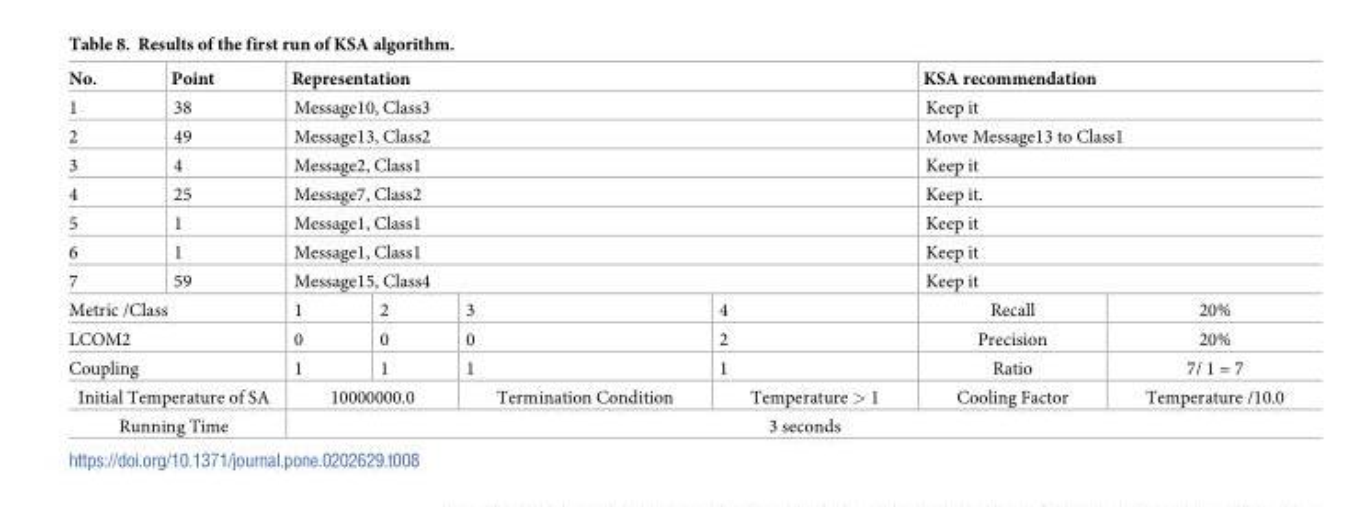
<table><thead><tr><td>No.</td><td>Point</td><td colspan="4">Representation</td><td colspan="2">KSA recommendation</td></tr></thead><tbody><tr><td>1</td><td>38</td><td colspan="4">Message10, Class3</td><td colspan="2">Keep it</td></tr><tr><td>2</td><td>49</td><td colspan="4">Message13, Class2</td><td colspan="2">Move Message13 to Class1</td></tr><tr><td>3</td><td>4</td><td colspan="4">Message2, Class1</td><td colspan="2">Keep it</td></tr><tr><td>4</td><td>25</td><td colspan="4">Message7, Class2</td><td colspan="2">Keep it.</td></tr><tr><td>5</td><td>1</td><td colspan="4">Message1, Class1</td><td colspan="2">Keep it</td></tr><tr><td>6</td><td>1</td><td colspan="4">Message1, Class1</td><td colspan="2">Keep it</td></tr><tr><td>7</td><td>59</td><td colspan="4">Message15, Class4</td><td colspan="2">Keep it</td></tr><tr><td colspan="2">Metric /Class</td><td>1</td><td>2</td><td>3</td><td>4</td><td>Recall</td><td>20%</td></tr><tr><td colspan="2">LCOM2</td><td>0</td><td>0</td><td>0</td><td>2</td><td>Precision</td><td>20%</td></tr><tr><td colspan="2">Coupling</td><td>1</td><td>1</td><td>1</td><td>1</td><td>Ratio</td><td>7/ 1 = 7</td></tr><tr><td colspan="2">Initial Temperature of SA</td><td colspan="2">10000000.0</td><td>Termination Condition</td><td>Temperature &gt; 1</td><td>Cooling Factor</td><td>Temperature /10.0</td></tr><tr><td colspan="2">Running Time</td><td colspan="6">3 seconds</td></tr></tbody></table>